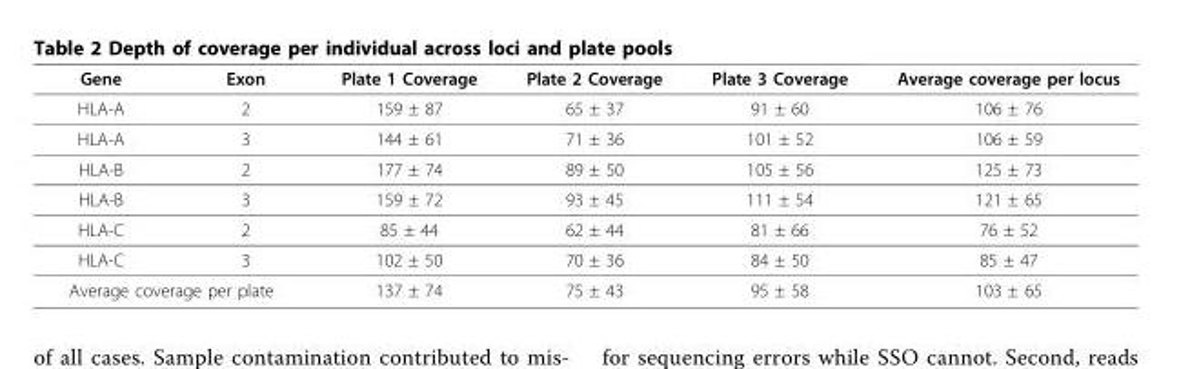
<table><thead><tr><td>Gene</td><td>Exon</td><td>Plate 1 Coverage</td><td>Plate 2 Coverage</td><td>Plate 3 Coverage</td><td>Average coverage per locus</td></tr></thead><tbody><tr><td>HLA-A</td><td>2</td><td>159 ± 87</td><td>65 ± 37</td><td>91 ± 60</td><td>106 ± 76</td></tr><tr><td>HLA-A</td><td>3</td><td>144 ± 61</td><td>71 ± 36</td><td>101 ± 52</td><td>106 ± 59</td></tr><tr><td>HLA-B</td><td>2</td><td>177 ± 74</td><td>89 ± 50</td><td>105 ± 56</td><td>125 ± 73</td></tr><tr><td>HLA-B</td><td>3</td><td>159 ± 72</td><td>93 ± 45</td><td>111 ± 54</td><td>121 ± 65</td></tr><tr><td>HLA-C</td><td>2</td><td>85 ± 44</td><td>62 ± 44</td><td>81 ± 66</td><td>76 ± 52</td></tr><tr><td>HLA-C</td><td>3</td><td>102 ± 50</td><td>70 ± 36</td><td>84 ± 50</td><td>85 ± 47</td></tr><tr><td colspan="2">Average coverage per plate</td><td>137 ± 74</td><td>75 ± 43</td><td>95 ± 58</td><td>103 ± 65</td></tr></tbody></table>